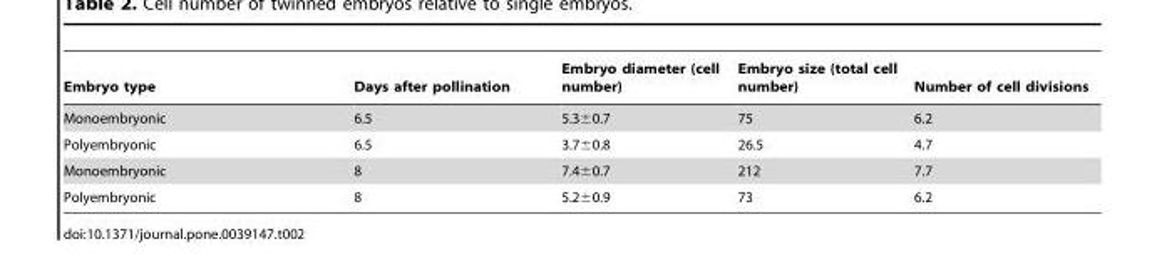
<table><thead><tr><td>Embryo type</td><td>Days after pollination</td><td>Embryo diameter (cell number)</td><td>Embryo size (total cell number)</td><td>Number of cell divisions</td></tr></thead><tbody><tr><td>Monoembryonic</td><td>6.5</td><td>5.3±0.7</td><td>75</td><td>6.2</td></tr><tr><td>Polyembryonic</td><td>6.5</td><td>3.7±0.8</td><td>26.5</td><td>4.7</td></tr><tr><td>Monoembryonic</td><td>8</td><td>7.4±0.7</td><td>212</td><td>7.7</td></tr><tr><td>Polyembryonic</td><td>8</td><td>5.2±0.9</td><td>73</td><td>6.2</td></tr></tbody></table>